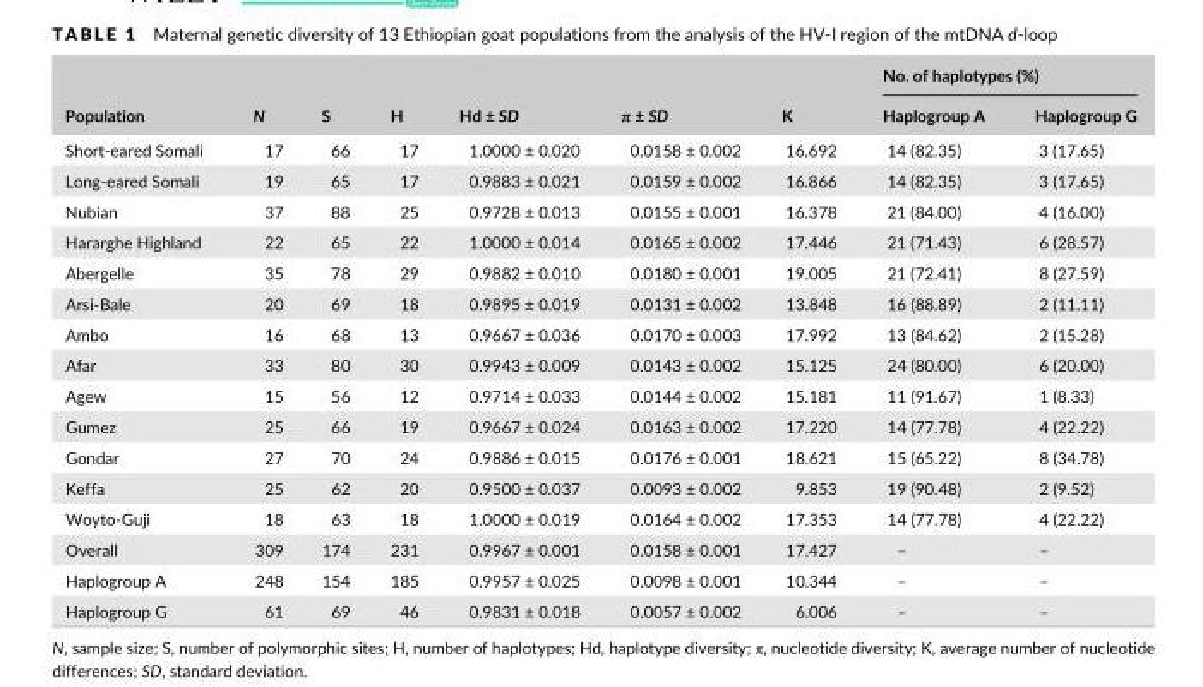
<table><thead><tr><td rowspan="2">Population</td><td rowspan="2">N</td><td rowspan="2">S</td><td rowspan="2">H</td><td rowspan="2">Hd ± SD</td><td rowspan="2">π ± SD</td><td rowspan="2">K</td><td colspan="2">No. of haplotypes (%)</td></tr><tr><td>Haplogroup A</td><td>Haplogroup G</td></tr></thead><tbody><tr><td>Short- eared Somali</td><td>17</td><td>66</td><td>17</td><td>1.0000 ± 0.020</td><td>0.0158 ± 0.002</td><td>16.692</td><td>14 (82.35)</td><td>3 (17.65)</td></tr><tr><td>Long- eared Somali</td><td>19</td><td>65</td><td>17</td><td>0.9883 ± 0.021</td><td>0.0159 ± 0.002</td><td>16.866</td><td>14 (82.35)</td><td>3 (17.65)</td></tr><tr><td>Nubian</td><td>37</td><td>88</td><td>25</td><td>0.9728 ± 0.013</td><td>0.0155 ± 0.001</td><td>16.378</td><td>21 (84.00)</td><td>4 (16.00)</td></tr><tr><td>Hararghe Highland</td><td>22</td><td>65</td><td>22</td><td>1.0000 ± 0.014</td><td>0.0165 ± 0.002</td><td>17.446</td><td>21 (71.43)</td><td>6 (28.57)</td></tr><tr><td>Abergelle</td><td>35</td><td>78</td><td>29</td><td>0.9882 ± 0.010</td><td>0.0180 ± 0.001</td><td>19.005</td><td>21 (72.41)</td><td>8 (27.59)</td></tr><tr><td>Arsi- Bale</td><td>20</td><td>69</td><td>18</td><td>0.9895 ± 0.019</td><td>0.0131 ± 0.002</td><td>13.848</td><td>16 (88.89)</td><td>2 (11.11)</td></tr><tr><td>Ambo</td><td>16</td><td>68</td><td>13</td><td>0.9667 ± 0.036</td><td>0.0170 ± 0.003</td><td>17.992</td><td>13 (84.62)</td><td>2 (15.28)</td></tr><tr><td>Afar</td><td>33</td><td>80</td><td>30</td><td>0.9943 ± 0.009</td><td>0.0143 ± 0.002</td><td>15.125</td><td>24 (80.00)</td><td>6 (20.00)</td></tr><tr><td>Agew</td><td>15</td><td>56</td><td>12</td><td>0.9714 ± 0.033</td><td>0.0144 ± 0.002</td><td>15.181</td><td>11 (91.67)</td><td>1 (8.33)</td></tr><tr><td>Gumez</td><td>25</td><td>66</td><td>19</td><td>0.9667 ± 0.024</td><td>0.0163 ± 0.002</td><td>17.220</td><td>14 (77.78)</td><td>4 (22.22)</td></tr><tr><td>Gondar</td><td>27</td><td>70</td><td>24</td><td>0.9886 ± 0.015</td><td>0.0176 ± 0.001</td><td>18.621</td><td>15 (65.22)</td><td>8 (34.78)</td></tr><tr><td>Keffa</td><td>25</td><td>62</td><td>20</td><td>0.9500 ± 0.037</td><td>0.0093 ± 0.002</td><td>9.853</td><td>19 (90.48)</td><td>2 (9.52)</td></tr><tr><td>Woyto- Guji</td><td>18</td><td>63</td><td>18</td><td>1.0000 ± 0.019</td><td>0.0164 ± 0.002</td><td>17.353</td><td>14 (77.78)</td><td>4 (22.22)</td></tr><tr><td>Overall</td><td>309</td><td>174</td><td>231</td><td>0.9967 ± 0.001</td><td>0.0158 ± 0.001</td><td>17.427</td><td>–</td><td>–</td></tr><tr><td>Haplogroup A</td><td>248</td><td>154</td><td>185</td><td>0.9957 ± 0.025</td><td>0.0098 ± 0.001</td><td>10.344</td><td>–</td><td>–</td></tr><tr><td>Haplogroup G</td><td>61</td><td>69</td><td>46</td><td>0.9831 ± 0.018</td><td>0.0057 ± 0.002</td><td>6.006</td><td>–</td><td>–</td></tr></tbody></table>